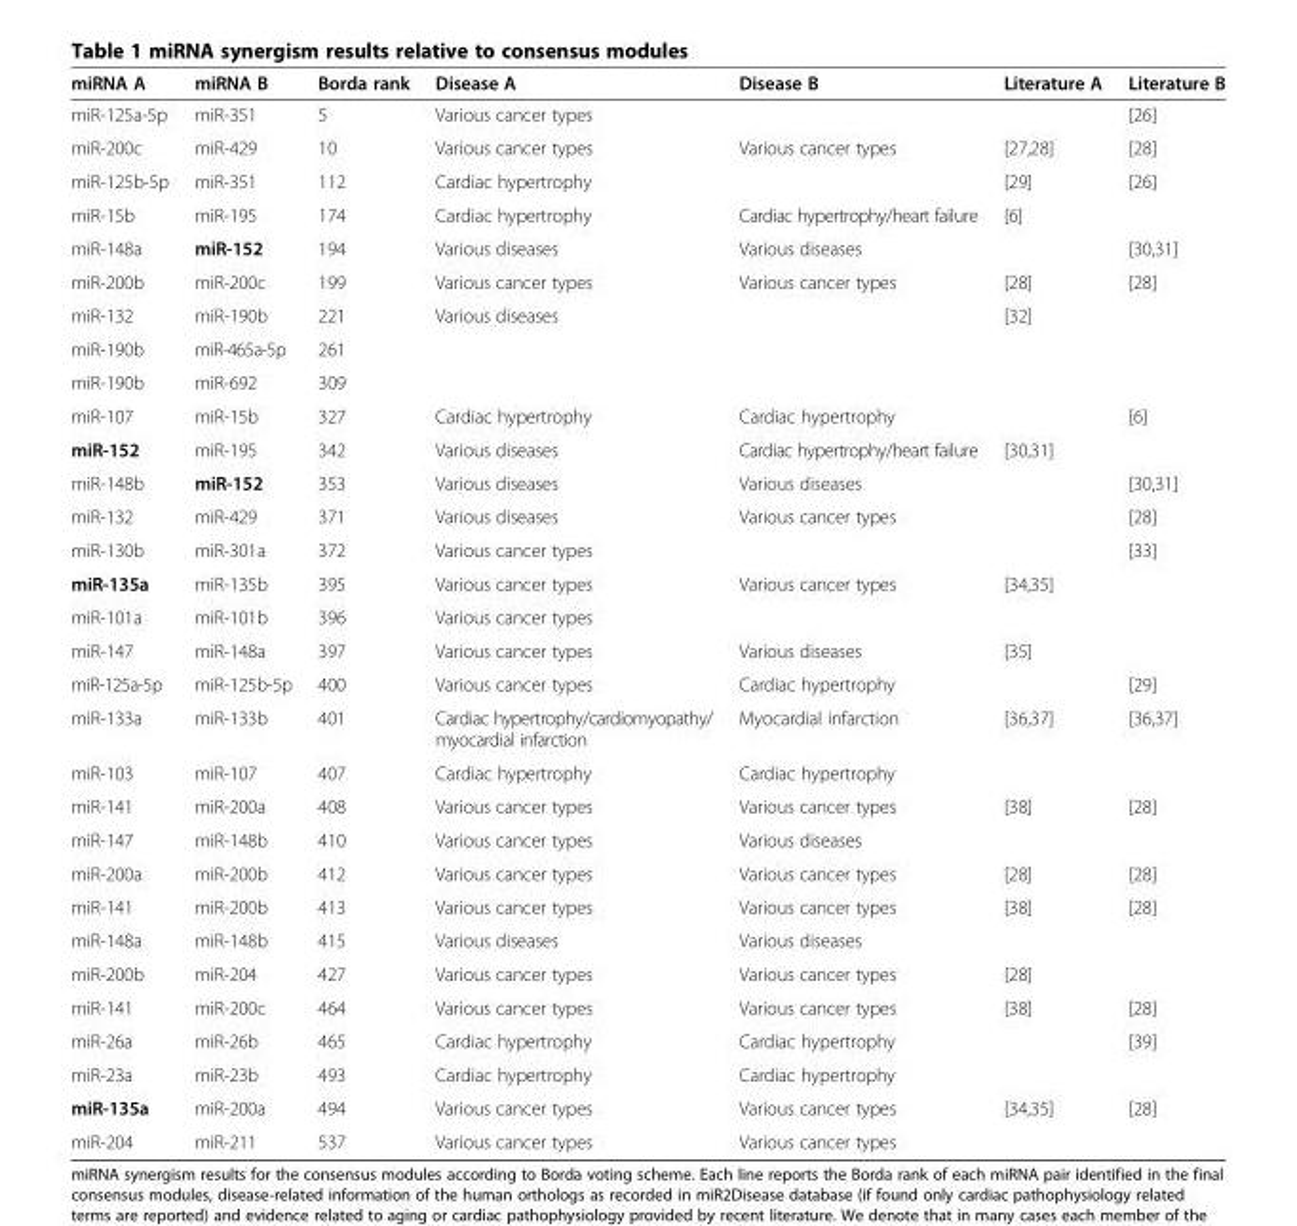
<table><thead><tr><td>miRNA A</td><td>miRNA B</td><td>Borda rank</td><td>Disease A</td><td>Disease B</td><td>Literature A</td><td>Literature B</td></tr></thead><tbody><tr><td>miR-125a-5p</td><td>miR-351</td><td>5</td><td>Various cancer types</td><td></td><td></td><td>[26]</td></tr><tr><td>miR-200c</td><td>miR-429</td><td>10</td><td>Various cancer types</td><td>Various cancer types</td><td>[27,28]</td><td>[28]</td></tr><tr><td>miR-125b-5p</td><td>miR-351</td><td>112</td><td>Cardiac hypertrophy</td><td></td><td>[29]</td><td>[26]</td></tr><tr><td>miR-15b</td><td>miR-195</td><td>174</td><td>Cardiac hypertrophy</td><td>Cardiac hypertrophy/heart failure</td><td>[6]</td><td></td></tr><tr><td>miR-148a</td><td>miR-152</td><td>194</td><td>Various diseases</td><td>Various diseases</td><td></td><td>[30,31]</td></tr><tr><td>miR-200b</td><td>miR-200c</td><td>199</td><td>Various cancer types</td><td>Various cancer types</td><td>[28]</td><td>[28]</td></tr><tr><td>miR-132</td><td>miR-190b</td><td>221</td><td>Various diseases</td><td></td><td>[32]</td><td></td></tr><tr><td>miR-190b</td><td>miR-465a-5p</td><td>261</td><td></td><td></td><td></td><td></td></tr><tr><td>miR-190b</td><td>miR-692</td><td>309</td><td></td><td></td><td></td><td></td></tr><tr><td>miR-107</td><td>miR-15b</td><td>327</td><td>Cardiac hypertrophy</td><td>Cardiac hypertrophy</td><td></td><td>[6]</td></tr><tr><td>miR-152</td><td>miR-195</td><td>342</td><td>Various diseases</td><td>Cardiac hypertrophy/heart failure</td><td>[30,31]</td><td></td></tr><tr><td>miR-148b</td><td>miR-152</td><td>353</td><td>Various diseases</td><td>Various diseases</td><td></td><td>[30,31]</td></tr><tr><td>miR-132</td><td>miR-429</td><td>371</td><td>Various diseases</td><td>Various cancer types</td><td></td><td>[28]</td></tr><tr><td>miR-130b</td><td>miR-301a</td><td>372</td><td>Various cancer types</td><td></td><td></td><td>[33]</td></tr><tr><td>miR-135a</td><td>miR-135b</td><td>395</td><td>Various cancer types</td><td>Various cancer types</td><td>[34,35]</td><td></td></tr><tr><td>miR-101a</td><td>miR-101b</td><td>396</td><td>Various cancer types</td><td></td><td></td><td></td></tr><tr><td>miR-147</td><td>miR-148a</td><td>397</td><td>Various cancer types</td><td>Various diseases</td><td>[35]</td><td></td></tr><tr><td>miR-125a-5p</td><td>miR-125b-5p</td><td>400</td><td>Various cancer types</td><td>Cardiac hypertrophy</td><td></td><td>[29]</td></tr><tr><td>miR-133a</td><td>miR-133b</td><td>401</td><td>Cardiac hypertrophy/cardiomyopathy/ myocardial infarction</td><td>Myocardial infarction</td><td>[36,37]</td><td>[36,37]</td></tr><tr><td>miR-103</td><td>miR-107</td><td>407</td><td>Cardiac hypertrophy</td><td>Cardiac hypertrophy</td><td></td><td></td></tr><tr><td>miR-141</td><td>miR-200a</td><td>408</td><td>Various cancer types</td><td>Various cancer types</td><td>[38]</td><td>[28]</td></tr><tr><td>miR-147</td><td>miR-148b</td><td>410</td><td>Various cancer types</td><td>Various diseases</td><td></td><td></td></tr><tr><td>miR-200a</td><td>miR-200b</td><td>412</td><td>Various cancer types</td><td>Various cancer types</td><td>[28]</td><td>[28]</td></tr><tr><td>miR-141</td><td>miR-200b</td><td>413</td><td>Various cancer types</td><td>Various cancer types</td><td>[38]</td><td>[28]</td></tr><tr><td>miR-148a</td><td>miR-148b</td><td>415</td><td>Various diseases</td><td>Various diseases</td><td></td><td></td></tr><tr><td>miR-200b</td><td>miR-204</td><td>427</td><td>Various cancer types</td><td>Various cancer types</td><td>[28]</td><td></td></tr><tr><td>miR-141</td><td>miR-200c</td><td>464</td><td>Various cancer types</td><td>Various cancer types</td><td>[38]</td><td>[28]</td></tr><tr><td>miR-26a</td><td>miR-26b</td><td>465</td><td>Cardiac hypertrophy</td><td>Cardiac hypertrophy</td><td></td><td>[39]</td></tr><tr><td>miR-23a</td><td>miR-23b</td><td>493</td><td>Cardiac hypertrophy</td><td>Cardiac hypertrophy</td><td></td><td></td></tr><tr><td>miR-135a</td><td>miR-200a</td><td>494</td><td>Various cancer types</td><td>Various cancer types</td><td>[34,35]</td><td>[28]</td></tr><tr><td>miR-204</td><td>miR-211</td><td>537</td><td>Various cancer types</td><td>Various cancer types</td><td></td><td></td></tr></tbody></table>